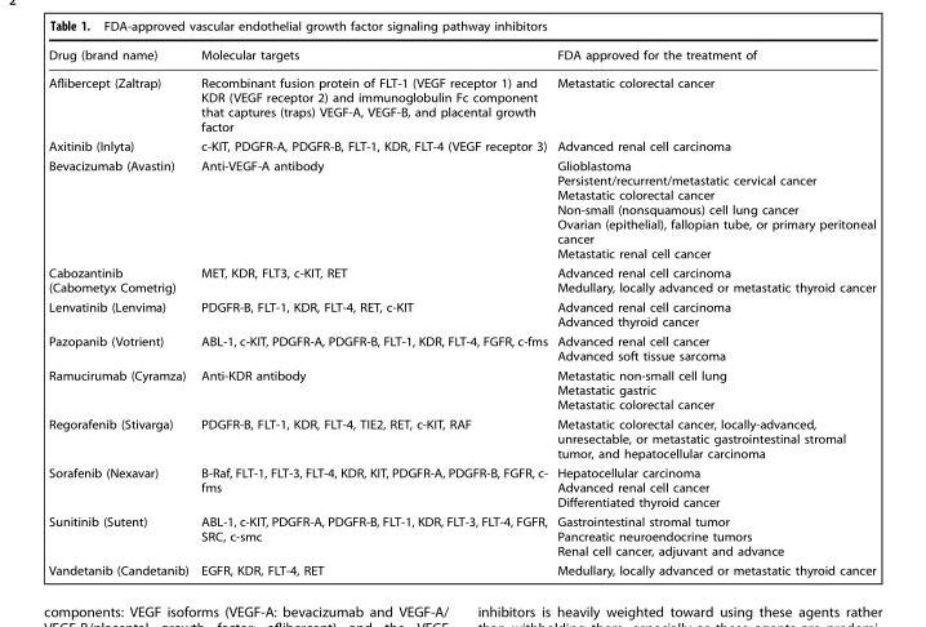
<table><thead><tr><td>Drug (brand name)</td><td>Molecular targets</td><td>FDA approved for the treatment of</td></tr></thead><tbody><tr><td>Aflibercept (Zaltrap)</td><td>Recombinant fusion protein of FLT-1 (VEGF receptor 1) and KDR (VEGF receptor 2) and immunoglobulin Fc component that captures (traps) VEGF-A, VEGF-B, and placental growth factor</td><td>Metastatic colorectal cancer</td></tr><tr><td>Axitinib (Inlyta)</td><td>c-KIT, PDGFR-A, PDGFR-B, FLT-1, KDR, FLT-4 (VEGF receptor 3)</td><td>Advanced renal cell carcinoma</td></tr><tr><td>Bevacizumab (Avastin)</td><td>Anti-VEGF-A antibody</td><td>Glioblastoma Persistent/recurrent/metastatic cervical cancer Metastatic colorectal cancer Non-small (nonsquamous) cell lung cancer Ovarian (epithelial), fallopian tube, or primary peritoneal cancer Metastatic renal cell cancer</td></tr><tr><td>Cabozantinib (Cabometyx Cometrig)</td><td>MET, KDR, FLT3, c-KIT, RET</td><td>Advanced renal cell carcinoma Medullary, locally advanced or metastatic thyroid cancer</td></tr><tr><td>Lenvatinib (Lenvima)</td><td>PDGFR-B, FLT-1, KDR, FLT-4, RET, c-KIT</td><td>Advanced renal cell carcinoma Advanced thyroid cancer</td></tr><tr><td>Pazopanib (Votrient)</td><td>ABL-1, c-KIT, PDGFR-A, PDGFR-B, FLT-1, KDR, FLT-4, FGFR, c-fms</td><td>Advanced renal cell cancer Advanced soft tissue sarcoma</td></tr><tr><td>Ramucirumab (Cyramza)</td><td>Anti-KDR antibody</td><td>Metastatic non-small cell lung Metastatic gastric Metastatic colorectal cancer</td></tr><tr><td>Regorafenib (Stivarga)</td><td>PDGFR-B, FLT-1, KDR, FLT-4, TIE2, RET, c-KIT, RAF</td><td>Metastatic colorectal cancer, locally-advanced, unresectable, or metastatic gastrointestinal stromal tumor, and hepatocellular carcinoma</td></tr><tr><td>Sorafenib (Nexavar)</td><td>B-Raf, FLT-1, FLT-3, FLT-4, KDR, KIT, PDGFR-A, PDGFR-B, FGFR, c- fms</td><td>Hepatocellular carcinoma Advanced renal cell cancer Differentiated thyroid cancer</td></tr><tr><td>Sunitinib (Sutent)</td><td>ABL-1, c-KIT, PDGFR-A, PDGFR-B, FLT-1, KDR, FLT-3, FLT-4, FGFR, SRC, c-smc</td><td>Gastrointestinal stromal tumor Pancreatic neuroendocrine tumors Renal cell cancer, adjuvant and advance</td></tr><tr><td>Vandetanib (Candetanib)</td><td>EGFR, KDR, FLT-4, RET</td><td>Medullary, locally advanced or metastatic thyroid cancer</td></tr></tbody></table>